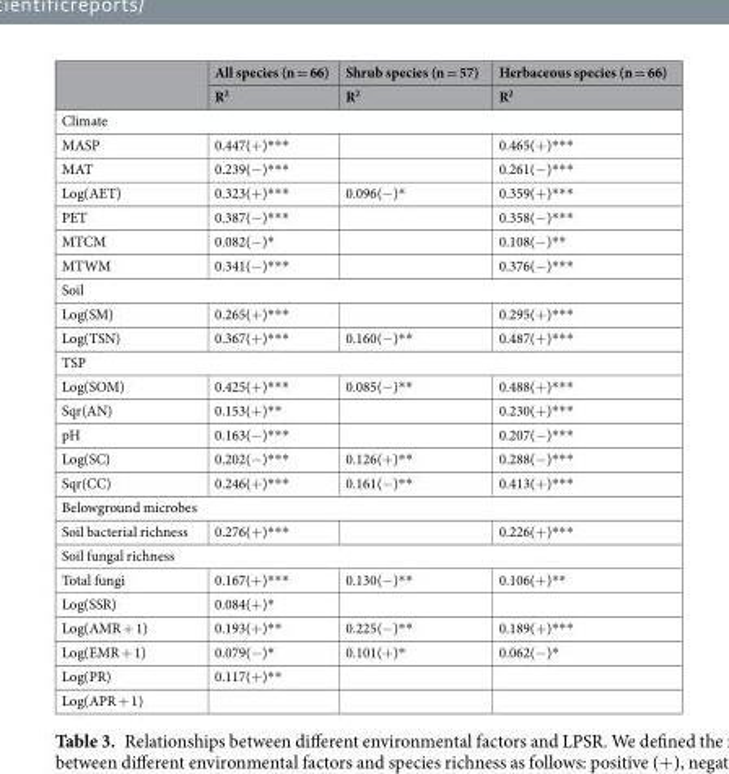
<table><thead><tr><td rowspan="2"></td><td rowspan="2">All species (n = 66) R<sup>2</sup></td><td rowspan="2">Shrub species (n = 57) R<sup>2</sup></td><td rowspan="2">Herbaceous species (n = 66) R<sup>2</sup></td></tr><tr></tr></thead><tbody><tr><td colspan="4">Climate</td></tr><tr><td>MASP</td><td>0.447(+)***</td><td></td><td>0.465(+)***</td></tr><tr><td>MAT</td><td>0.239(−)***</td><td></td><td>0.261(−)***</td></tr><tr><td>Log(AET)</td><td>0.323(+)***</td><td>0.096(−)*</td><td>0.359(+)***</td></tr><tr><td>PET</td><td>0.387(−)***</td><td></td><td>0.358(−)***</td></tr><tr><td>MTCM</td><td>0.082(−)*</td><td></td><td>0.108(−)**</td></tr><tr><td>MTWM</td><td>0.341(−)***</td><td></td><td>0.376(−)***</td></tr><tr><td colspan="4">Soil</td></tr><tr><td>Log(SM)</td><td>0.265(+)***</td><td></td><td>0.295(+)***</td></tr><tr><td>Log(TSN)</td><td>0.367(+)***</td><td>0.160(−)**</td><td>0.487(+)***</td></tr><tr><td colspan="4">TSP</td></tr><tr><td>Log(SOM)</td><td>0.425(+)***</td><td>0.085(−)**</td><td>0.488(+)***</td></tr><tr><td>Sqr(AN)</td><td>0.153(+)**</td><td></td><td>0.230(+)***</td></tr><tr><td>pH</td><td>0.163(−)***</td><td></td><td>0.207(−)***</td></tr><tr><td>Log(SC)</td><td>0.202(−)***</td><td>0.126(+)**</td><td>0.288(−)***</td></tr><tr><td>Sqr(CC)</td><td>0.246(+)***</td><td>0.161(−)**</td><td>0.413(+)***</td></tr><tr><td colspan="4">Belowground microbes</td></tr><tr><td>Soil bacterial richness</td><td>0.276(+)***</td><td></td><td>0.226(+)***</td></tr><tr><td colspan="4">Soil fungal richness</td></tr><tr><td>Total fungi</td><td>0.167(+)***</td><td>0.130(−)**</td><td>0.106(+)**</td></tr><tr><td>Log(SSR)</td><td>0.084(+)*</td><td></td><td></td></tr><tr><td>Log(AMR + 1)</td><td>0.193(+)**</td><td>0.225(−)**</td><td>0.189(+)***</td></tr><tr><td>Log(EMR + 1)</td><td>0.079(−)*</td><td>0.101(+)*</td><td>0.062(−)*</td></tr><tr><td>Log(PR)</td><td>0.117(+)**</td><td></td><td></td></tr><tr><td>Log(APR + 1)</td><td></td><td></td><td></td></tr></tbody></table>